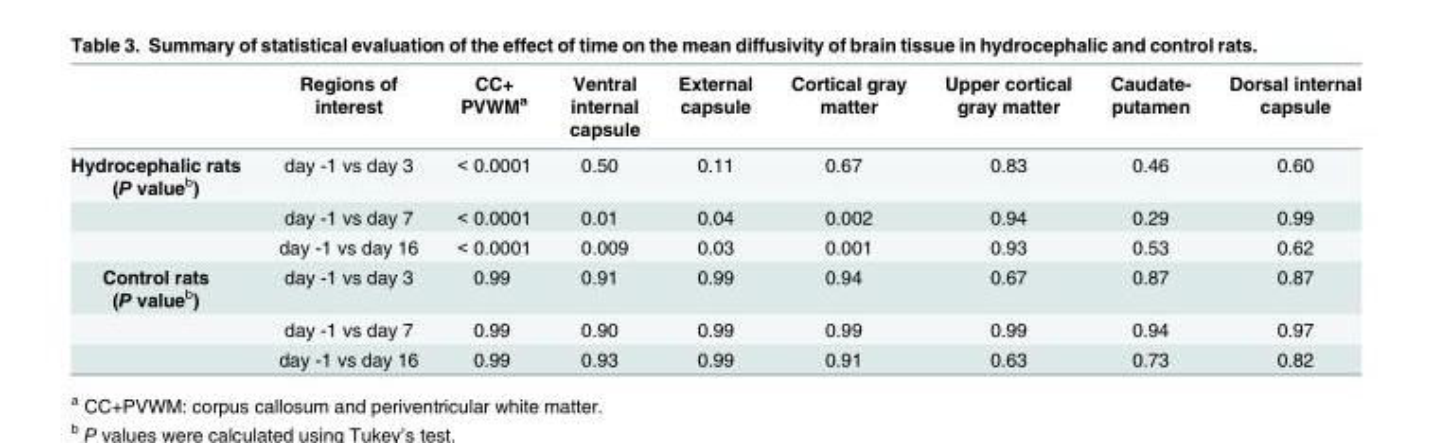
<table><thead><tr><td></td><td>Regions of interest</td><td>CC+ PVWM<sup>a</sup></td><td>Ventral internal capsule</td><td>External capsule</td><td>Cortical gray matter</td><td>Upper cortical gray matter</td><td>Caudate- putamen</td><td>Dorsal internal capsule</td></tr></thead><tbody><tr><td rowspan="3">Hydrocephalic rats (P value<sup>b</sup>)</td><td>day -1 vs day 3</td><td>&lt; 0.0001</td><td>0.50</td><td>0.11</td><td>0.67</td><td>0.83</td><td>0.46</td><td>0.60</td></tr><tr><td>day -1 vs day 7</td><td>&lt; 0.0001</td><td>0.01</td><td>0.04</td><td>0.002</td><td>0.94</td><td>0.29</td><td>0.99</td></tr><tr><td>day -1 vs day 16</td><td>&lt; 0.0001</td><td>0.009</td><td>0.03</td><td>0.001</td><td>0.93</td><td>0.53</td><td>0.62</td></tr><tr><td rowspan="3">Control rats (P value<sup>b</sup>)</td><td>day -1 vs day 3</td><td>0.99</td><td>0.91</td><td>0.99</td><td>0.94</td><td>0.67</td><td>0.87</td><td>0.87</td></tr><tr><td>day -1 vs day 7</td><td>0.99</td><td>0.90</td><td>0.99</td><td>0.99</td><td>0.99</td><td>0.94</td><td>0.97</td></tr><tr><td>day -1 vs day 16</td><td>0.99</td><td>0.93</td><td>0.99</td><td>0.91</td><td>0.63</td><td>0.73</td><td>0.82</td></tr></tbody></table>